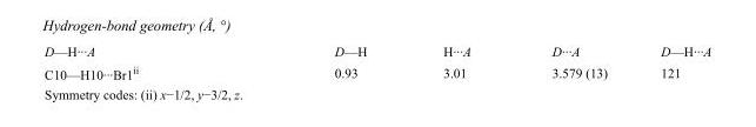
<table><tbody><tr><td>D—H···A</td><td>D—H</td><td>H···A</td><td>D···A</td><td>D—H···A</td></tr><tr><td>C10—H10···Br1<sup>ii</sup></td><td>0.93</td><td>3.01</td><td>3.579 (13)</td><td>121</td></tr></tbody></table>